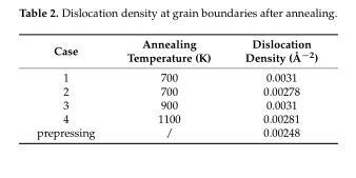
<table><thead><tr><td>Case</td><td>Annealing Temperature (K)</td><td>Dislocation Density (Å<sup>−2</sup>)</td></tr></thead><tbody><tr><td>1</td><td>700</td><td>0.0031</td></tr><tr><td>2</td><td>700</td><td>0.00278</td></tr><tr><td>3</td><td>900</td><td>0.0031</td></tr><tr><td>4</td><td>1100</td><td>0.00281</td></tr><tr><td>prepressing</td><td>/</td><td>0.00248</td></tr></tbody></table>